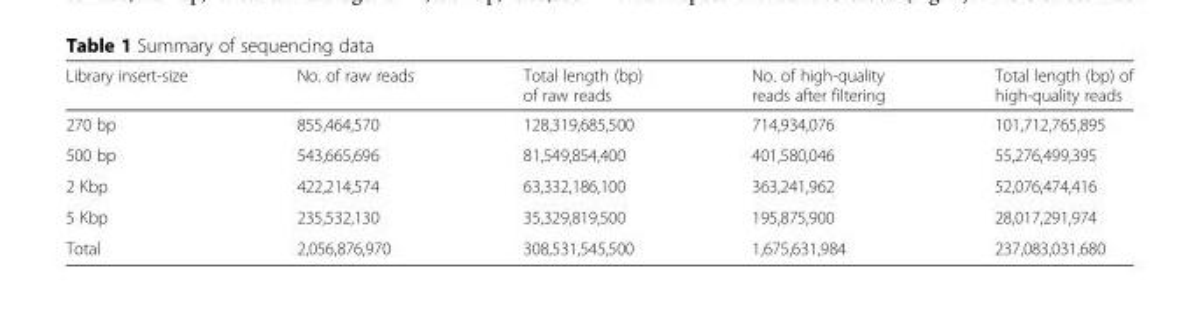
<table><thead><tr><td>Library insert-size</td><td>No. of raw reads</td><td>Total length (bp) of raw reads</td><td>No. of high-quality reads after filtering</td><td>Total length (bp) of high-quality reads</td></tr></thead><tbody><tr><td>270 bp</td><td>855,464,570</td><td>128,319,685,500</td><td>714,934,076</td><td>101,712,765,895</td></tr><tr><td>500 bp</td><td>543,665,696</td><td>81,549,854,400</td><td>401,580,046</td><td>55,276,499,395</td></tr><tr><td>2 Kbp</td><td>422,214,574</td><td>63,332,186,100</td><td>363,241,962</td><td>52,076,474,416</td></tr><tr><td>5 Kbp</td><td>235,532,130</td><td>35,329,819,500</td><td>195,875,900</td><td>28,017,291,974</td></tr><tr><td>Total</td><td>2,056,876,970</td><td>308,531,545,500</td><td>1,675,631,984</td><td>237,083,031,680</td></tr></tbody></table>